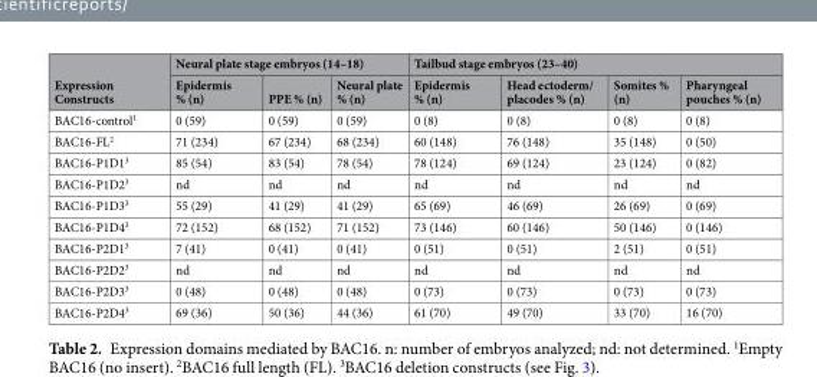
<table><thead><tr><td rowspan="2">Expression Constructs</td><td colspan="3">Neural plate stage embryos (14–18)</td><td colspan="4">Tailbud stage embryos (23–40)</td></tr><tr><td>Epidermis % (n)</td><td>PPE % (n)</td><td>Neural plate % (n)</td><td>Epidermis % (n)</td><td>Head ectoderm/ placodes % (n)</td><td>Somites % (n)</td><td>Pharyngeal pouches % (n)</td></tr></thead><tbody><tr><td>BAC16-control<sup>1</sup></td><td>0 (59)</td><td>0 (59)</td><td>0 (59)</td><td>0 (8)</td><td>0 (8)</td><td>0 (8)</td><td>0 (8)</td></tr><tr><td>BAC16-FL<sup>2</sup></td><td>71 (234)</td><td>67 (234)</td><td>68 (234)</td><td>60 (148)</td><td>76 (148)</td><td>35 (148)</td><td>0 (50)</td></tr><tr><td>BAC16-P1D1<sup>3</sup></td><td>85 (54)</td><td>83 (54)</td><td>78 (54)</td><td>78 (124)</td><td>69 (124)</td><td>23 (124)</td><td>0 (82)</td></tr><tr><td>BAC16-P1D2<sup>3</sup></td><td>nd</td><td>nd</td><td>nd</td><td>nd</td><td>nd</td><td>nd</td><td>nd</td></tr><tr><td>BAC16-P1D3<sup>3</sup></td><td>55 (29)</td><td>41 (29)</td><td>41 (29)</td><td>65 (69)</td><td>46 (69)</td><td>26 (69)</td><td>0 (69)</td></tr><tr><td>BAC16-P1D4<sup>3</sup></td><td>72 (152)</td><td>68 (152)</td><td>71 (152)</td><td>73 (146)</td><td>60 (146)</td><td>50 (146)</td><td>0 (146)</td></tr><tr><td>BAC16-P2D1<sup>3</sup></td><td>7 (41)</td><td>0 (41)</td><td>0 (41)</td><td>0 (51)</td><td>0 (51)</td><td>2 (51)</td><td>0 (51)</td></tr><tr><td>BAC16-P2D2<sup>3</sup></td><td>nd</td><td>nd</td><td>nd</td><td>nd</td><td>nd</td><td>nd</td><td>nd</td></tr><tr><td>BAC16-P2D3<sup>3</sup></td><td>0 (48)</td><td>0 (48)</td><td>0 (48)</td><td>0 (73)</td><td>0 (73)</td><td>0 (73)</td><td>0 (73)</td></tr><tr><td>BAC16-P2D4<sup>3</sup></td><td>69 (36)</td><td>50 (36)</td><td>44 (36)</td><td>61 (70)</td><td>49 (70)</td><td>33 (70)</td><td>16 (70)</td></tr></tbody></table>